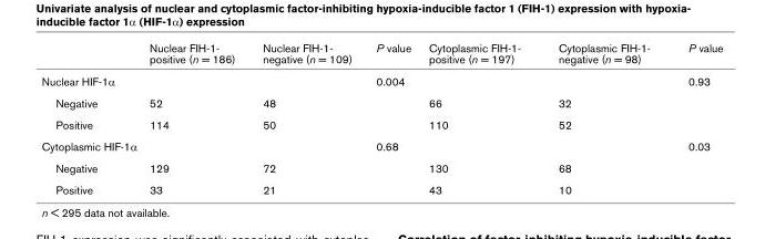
<table><thead><tr><td></td><td>Nuclear FIH-1- positive (n = 186)</td><td>Nuclear FIH-1- negative (n = 109)</td><td>P value</td><td>Cytoplasmic FIH-1- positive (n = 197)</td><td>Cytoplasmic FIH-1- negative (n = 98)</td><td>P value</td></tr></thead><tbody><tr><td>Nuclear HIF-1α</td><td></td><td></td><td>0.004</td><td></td><td></td><td>0.93</td></tr><tr><td>Negative</td><td>52</td><td>48</td><td></td><td>66</td><td>32</td><td></td></tr><tr><td>Positive</td><td>114</td><td>50</td><td></td><td>110</td><td>52</td><td></td></tr><tr><td>Cytoplasmic HIF-1α</td><td></td><td></td><td>0.68</td><td></td><td></td><td>0.03</td></tr><tr><td>Negative</td><td>129</td><td>72</td><td></td><td>130</td><td>68</td><td></td></tr><tr><td>Positive</td><td>33</td><td>21</td><td></td><td>43</td><td>10</td><td></td></tr></tbody></table>